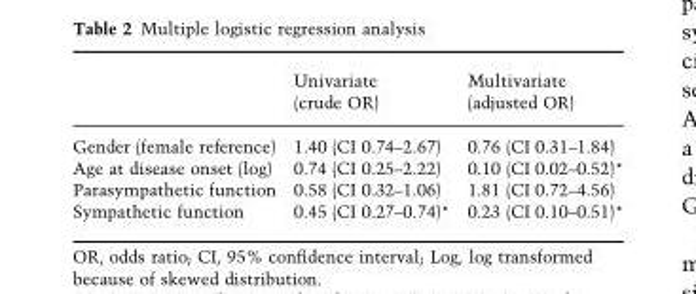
<table><thead><tr><td></td><td>Univariate (crude OR)</td><td>Multivariate (adjusted OR)</td></tr></thead><tbody><tr><td>Gender (female reference)</td><td>1.40 (CI 0.74–2.67)</td><td>0.76 (CI 0.31–1.84)</td></tr><tr><td>Age at disease onset (log)</td><td>0.74 (CI 0.25–2.22)</td><td>0.10 (CI 0.02–0.52)*</td></tr><tr><td>Parasympathetic function</td><td>0.58 (CI 0.32–1.06)</td><td>1.81 (CI 0.72–4.56)</td></tr><tr><td>Sympathetic function</td><td>0.45 (CI 0.27–0.74)*</td><td>0.23 (CI 0.10–0.51)*</td></tr></tbody></table>